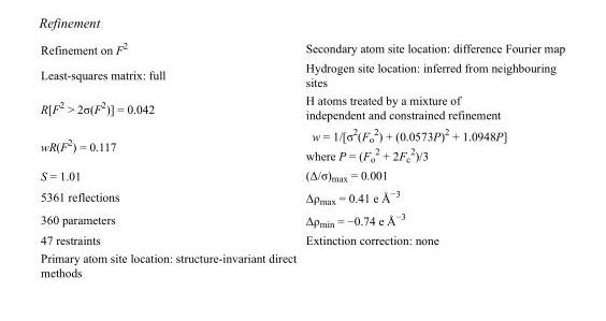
<table><tbody><tr><td>Refinement on F<sup>2</sup></td><td>Secondary atom site location: difference Fourier map</td></tr><tr><td>Least-squares matrix: full</td><td>Hydrogen site location: inferred from neighbouring sites</td></tr><tr><td>R[F<sup>2</sup> &gt; 2σ(F<sup>2</sup>)] = 0.042</td><td>H atoms treated by a mixture of independent and constrained refinement</td></tr><tr><td>wR(F<sup>2</sup>) = 0.117</td><td>w = 1/[σ<sup>2</sup>(F<sub>o</sub> <sup>2</sup>) + (0.0573P)<sup>2</sup> + 1.0948P] where P = (F<sub>o</sub> <sup>2</sup> + 2F<sub>c</sub> <sup>2</sup>)/3</td></tr><tr><td>S = 1.01</td><td>(Δ/σ)<sub>max</sub> = 0.001</td></tr><tr><td>5361 reflections</td><td>Δρ<sub>max</sub> = 0.41 e Å<sup>−3</sup></td></tr><tr><td>360 parameters</td><td>Δρ<sub>min</sub> = −0.74 e Å<sup>−3</sup></td></tr><tr><td>47 restraints</td><td>Extinction correction: none</td></tr><tr><td>Primary atom site location: structure-invariant direct methods</td><td></td></tr></tbody></table>